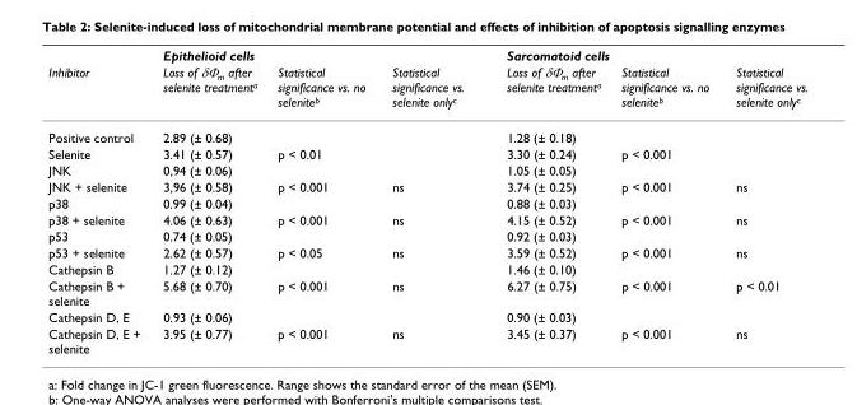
<table><thead><tr><td rowspan="2">Inhibitor</td><td colspan="3">Epithelioid cells</td><td colspan="3">Sarcomatoid cells</td></tr><tr><td>Loss of δΦ<sub>m</sub> after selenite treatment<sup>a</sup></td><td>Statistical significance vs. no selenite<sup>b</sup></td><td>Statistical significance vs. selenite only<sup>c</sup></td><td>Loss of δΦ<sub>m</sub> after selenite treatment<sup>a</sup></td><td>Statistical significance vs. no selenite<sup>b</sup></td><td>Statistical significance vs. selenite only<sup>c</sup></td></tr></thead><tbody><tr><td>Positive control</td><td>2.89 (± 0.68)</td><td></td><td></td><td>1.28 (± 0.18)</td><td></td><td></td></tr><tr><td>Selenite</td><td>3.41 (± 0.57)</td><td>p &lt; 0.01</td><td></td><td>3.30 (± 0.24)</td><td>p &lt; 0.001</td><td></td></tr><tr><td>JNK</td><td>0,94 (± 0.06)</td><td></td><td></td><td>1.05 (± 0.05)</td><td></td><td></td></tr><tr><td>JNK + selenite</td><td>3,96 (± 0.58)</td><td>p &lt; 0.001</td><td>ns</td><td>3.74 (± 0.25)</td><td>p &lt; 0.001</td><td>ns</td></tr><tr><td>p38</td><td>0.99 (± 0.04)</td><td></td><td></td><td>0.88 (± 0.03)</td><td></td><td></td></tr><tr><td>p38 + selenite</td><td>4.06 (± 0.63)</td><td>p &lt; 0.001</td><td>ns</td><td>4.15 (± 0.52)</td><td>p &lt; 0.001</td><td>ns</td></tr><tr><td>p53</td><td>0.74 (± 0.05)</td><td></td><td></td><td>0.92 (± 0.03)</td><td></td><td></td></tr><tr><td>p53 + selenite</td><td>2.62 (± 0.57)</td><td>p &lt; 0.05</td><td>ns</td><td>3.59 (± 0.52)</td><td>p &lt; 0.001</td><td>ns</td></tr><tr><td>Cathepsin B</td><td>1.27 (± 0.12)</td><td></td><td></td><td>1.46 (± 0.10)</td><td></td><td></td></tr><tr><td>Cathepsin B + selenite</td><td>5.68 (± 0.70)</td><td>p &lt; 0.001</td><td>ns</td><td>6.27 (± 0.75)</td><td>p &lt; 0.001</td><td>p &lt; 0.01</td></tr><tr><td>Cathepsin D, E</td><td>0.93 (± 0.06)</td><td></td><td></td><td>0.90 (± 0.03)</td><td></td><td></td></tr><tr><td>Cathepsin D, E + selenite</td><td>3.95 (± 0.77)</td><td>p &lt; 0.001</td><td>ns</td><td>3.45 (± 0.37)</td><td>p &lt; 0.001</td><td>ns</td></tr></tbody></table>